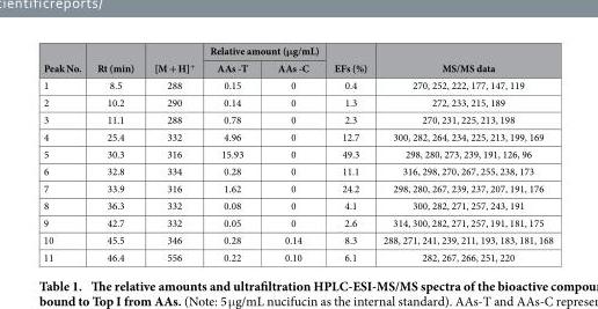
<table><thead><tr><td rowspan="2">Peak No.</td><td rowspan="2">Rt (min)</td><td rowspan="2">[M + H]<sup>+</sup></td><td colspan="2">Relative amount (μg/mL)</td><td rowspan="2">EFs (%)</td><td rowspan="2">MS/MS data</td></tr><tr><td>AAs -T</td><td>AAs -C</td></tr></thead><tbody><tr><td>1</td><td>8.5</td><td>288</td><td>0.15</td><td>0</td><td>0.4</td><td>270, 252, 222, 177, 147, 119</td></tr><tr><td>2</td><td>10.2</td><td>290</td><td>0.14</td><td>0</td><td>1.3</td><td>272, 233, 215, 189</td></tr><tr><td>3</td><td>11.1</td><td>288</td><td>0.78</td><td>0</td><td>2.3</td><td>270, 231, 225, 213, 198</td></tr><tr><td>4</td><td>25.4</td><td>332</td><td>4.96</td><td>0</td><td>12.7</td><td>300, 282, 264, 234, 225, 213, 199, 169</td></tr><tr><td>5</td><td>30.3</td><td>316</td><td>15.93</td><td>0</td><td>49.3</td><td>298, 280, 273, 239, 191, 126, 96</td></tr><tr><td>6</td><td>32.8</td><td>334</td><td>0.28</td><td>0</td><td>11.1</td><td>316, 298, 270, 267, 255, 238, 173</td></tr><tr><td>7</td><td>33.9</td><td>316</td><td>1.62</td><td>0</td><td>24.2</td><td>298, 280, 267, 239, 237, 207, 191, 176</td></tr><tr><td>8</td><td>36.3</td><td>332</td><td>0.08</td><td>0</td><td>4.1</td><td>300, 282, 271, 257, 243, 191</td></tr><tr><td>9</td><td>42.7</td><td>332</td><td>0.05</td><td>0</td><td>2.6</td><td>314, 300, 282, 271, 257, 191, 181, 175</td></tr><tr><td>10</td><td>45.5</td><td>346</td><td>0.28</td><td>0.14</td><td>8.3</td><td>288, 271, 241, 239, 211, 193, 183, 181, 168</td></tr><tr><td>11</td><td>46.4</td><td>556</td><td>0.22</td><td>0.10</td><td>6.1</td><td>282, 267, 266, 251, 220</td></tr></tbody></table>